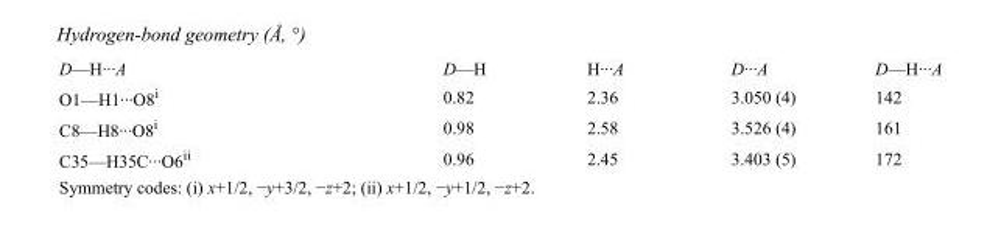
<table><tbody><tr><td>D—H···A</td><td>D—H</td><td>H···A</td><td>D···A</td><td>D—H···A</td></tr><tr><td>O1—H1···O8<sup>i</sup></td><td>0.82</td><td>2.36</td><td>3.050 (4)</td><td>142</td></tr><tr><td>C8—H8···O8<sup>i</sup></td><td>0.98</td><td>2.58</td><td>3.526 (4)</td><td>161</td></tr><tr><td>C35—H35C···O6<sup>ii</sup></td><td>0.96</td><td>2.45</td><td>3.403 (5)</td><td>172</td></tr></tbody></table>